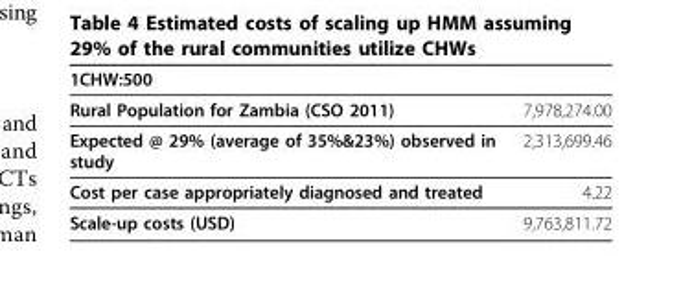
<table><thead><tr><td>1CHW:500</td><td></td></tr></thead><tbody><tr><td>Rural Population for Zambia (CSO 2011)</td><td>7,978,274.00</td></tr><tr><td>Expected @ 29% (average of 35%&amp;23%) observed in study</td><td>2,313,699.46</td></tr><tr><td>Cost per case appropriately diagnosed and treated</td><td>4.22</td></tr><tr><td>Scale-up costs (USD)</td><td>9,763,811.72</td></tr></tbody></table>